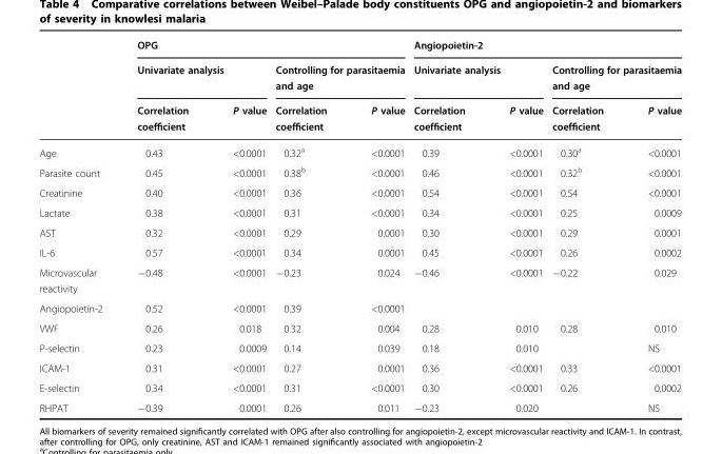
<table><thead><tr><td rowspan="3"></td><td colspan="4">OPG</td><td colspan="4">Angiopoietin-2</td></tr><tr><td colspan="2">Univariate analysis</td><td colspan="2">Controlling for parasitaemia and age</td><td colspan="2">Univariate analysis</td><td colspan="2">Controlling for parasitaemia and age</td></tr><tr><td>Correlation coefficient</td><td>P value</td><td>Correlation coefficient</td><td>P value</td><td>Correlation coefficient</td><td>P value</td><td>Correlation coefficient</td><td>P value</td></tr></thead><tbody><tr><td>Age</td><td>0.43</td><td>&lt;0.0001</td><td>0.32<sup>a</sup></td><td>&lt;0.0001</td><td>0.39</td><td>&lt;0.0001</td><td>0.30<sup>a</sup></td><td>&lt;0.0001</td></tr><tr><td>Parasite count</td><td>0.45</td><td>&lt;0.0001</td><td>0.38<sup>b</sup></td><td>&lt;0.0001</td><td>0.46</td><td>&lt;0.0001</td><td>0.32<sup>b</sup></td><td>&lt;0.0001</td></tr><tr><td>Creatinine</td><td>0.40</td><td>&lt;0.0001</td><td>0.36</td><td>&lt;0.0001</td><td>0.54</td><td>&lt;0.0001</td><td>0.54</td><td>&lt;0.0001</td></tr><tr><td>Lactate</td><td>0.38</td><td>&lt;0.0001</td><td>0.31</td><td>&lt;0.0001</td><td>0.34</td><td>&lt;0.0001</td><td>0.25</td><td>0.0009</td></tr><tr><td>AST</td><td>0.32</td><td>&lt;0.0001</td><td>0.29</td><td>0.0001</td><td>0.30</td><td>&lt;0.0001</td><td>0.29</td><td>0.0001</td></tr><tr><td>IL-6</td><td>0.57</td><td>&lt;0.0001</td><td>0.34</td><td>0.0001</td><td>0.45</td><td>&lt;0.0001</td><td>0.26</td><td>0.0002</td></tr><tr><td>Microvascular reactivity</td><td>−0.48</td><td>&lt;0.0001</td><td>−0.23</td><td>0.024</td><td>−0.46</td><td>&lt;0.0001</td><td>−0.22</td><td>0.029</td></tr><tr><td>Angiopoietin-2</td><td>0.52</td><td>&lt;0.0001</td><td>0.39</td><td>&lt;0.0001</td><td></td><td></td><td></td><td></td></tr><tr><td>VWF</td><td>0.26</td><td>0.018</td><td>0.32</td><td>0.004</td><td>0.28</td><td>0.010</td><td>0.28</td><td>0.010</td></tr><tr><td>P-selectin</td><td>0.23</td><td>0.0009</td><td>0.14</td><td>0.039</td><td>0.18</td><td>0.010</td><td></td><td>NS</td></tr><tr><td>ICAM-1</td><td>0.31</td><td>&lt;0.0001</td><td>0.27</td><td>0.0001</td><td>0.36</td><td>&lt;0.0001</td><td>0.33</td><td>&lt;0.0001</td></tr><tr><td>E-selectin</td><td>0.34</td><td>&lt;0.0001</td><td>0.31</td><td>&lt;0.0001</td><td>0.30</td><td>&lt;0.0001</td><td>0.26</td><td>0.0002</td></tr><tr><td>RHPAT</td><td>−0.39</td><td>0.0001</td><td>0.26</td><td>0.011</td><td>−0.23</td><td>0.020</td><td></td><td>NS</td></tr></tbody></table>